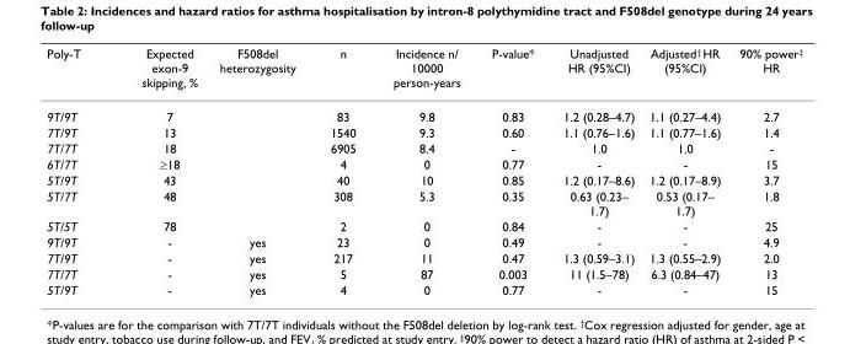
<table><thead><tr><td>Poly-T</td><td>Expected exon-9 skipping, %</td><td>F508del heterozygosity</td><td>n</td><td>Incidence n/ 10000 person-years</td><td>P-value*</td><td>Unadjusted HR (95%CI)</td><td>Adjusted<sup>†</sup> HR (95%CI)</td><td>90% power<sup>‡</sup> HR</td></tr></thead><tbody><tr><td>9T/9T</td><td>7</td><td></td><td>83</td><td>9.8</td><td>0.83</td><td>1.2 (0.28–4.7)</td><td>1.1 (0.27–4.4)</td><td>2.7</td></tr><tr><td>7T/9T</td><td>13</td><td></td><td>1540</td><td>9.3</td><td>0.60</td><td>1.1 (0.76–1.6)</td><td>1.1 (0.77–1.6)</td><td>1.4</td></tr><tr><td>7T/7T</td><td>18</td><td></td><td>6905</td><td>8.4</td><td>-</td><td>1.0</td><td>1.0</td><td>-</td></tr><tr><td>6T/7T</td><td>≥18</td><td></td><td>4</td><td>0</td><td>0.77</td><td>-</td><td>-</td><td>15</td></tr><tr><td>5T/9T</td><td>43</td><td></td><td>40</td><td>10</td><td>0.85</td><td>1.2 (0.17–8.6)</td><td>1.2 (0.17–8.9)</td><td>3.7</td></tr><tr><td>5T/7T</td><td>48</td><td></td><td>308</td><td>5.3</td><td>0.35</td><td>0.63 (0.23– 1.7)</td><td>0.53 (0.17– 1.7)</td><td>1.8</td></tr><tr><td>5T/5T</td><td>78</td><td></td><td>2</td><td>0</td><td>0.84</td><td>-</td><td>-</td><td>25</td></tr><tr><td>9T/9T</td><td>-</td><td>yes</td><td>23</td><td>0</td><td>0.49</td><td>-</td><td>-</td><td>4.9</td></tr><tr><td>7T/9T</td><td>-</td><td>yes</td><td>217</td><td>11</td><td>0.47</td><td>1.3 (0.59–3.1)</td><td>1.3 (0.55–2.9)</td><td>2.0</td></tr><tr><td>7T/7T</td><td>-</td><td>yes</td><td>5</td><td>87</td><td>0.003</td><td>11 (1.5–78)</td><td>6.3 (0.84–47)</td><td>13</td></tr><tr><td>5T/9T</td><td>-</td><td>yes</td><td>4</td><td>0</td><td>0.77</td><td>-</td><td>-</td><td>15</td></tr></tbody></table>